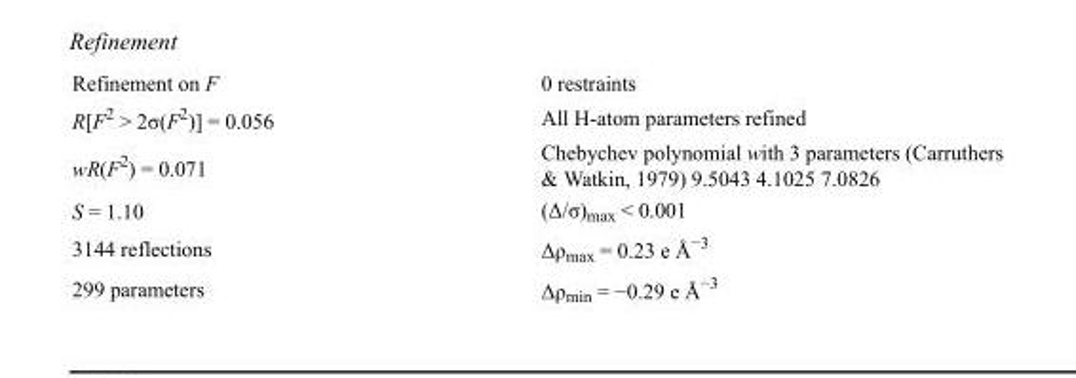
<table><tbody><tr><td>Refinement on F</td><td>0 restraints</td></tr><tr><td>R[F<sup>2</sup> &gt; 2σ(F<sup>2</sup>)] = 0.056</td><td>All H-atom parameters refined</td></tr><tr><td>wR(F<sup>2</sup>) = 0.071</td><td>Chebychev polynomial with 3 parameters (Carruthers &amp; Watkin, 1979) 9.5043 4.1025 7.0826</td></tr><tr><td>S = 1.10</td><td>(Δ/σ)<sub>max</sub> &lt; 0.001</td></tr><tr><td>3144 reflections</td><td>Δρ<sub>max</sub> = 0.23 e Å<sup>−3</sup></td></tr><tr><td>299 parameters</td><td>Δρ<sub>min</sub> = −0.29 e Å<sup>−3</sup></td></tr></tbody></table>